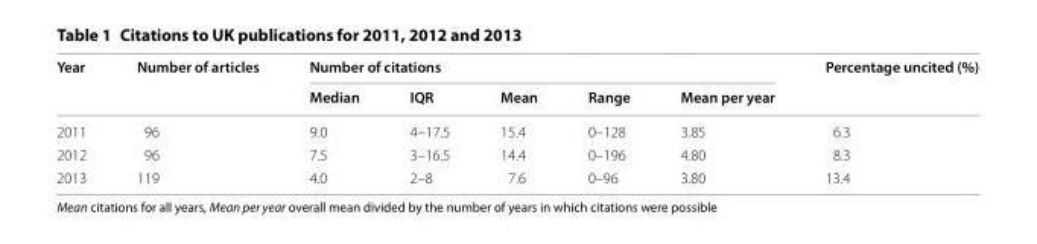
<table><thead><tr><td rowspan="2">Year</td><td rowspan="2">Number of articles</td><td colspan="5">Number of citations</td><td rowspan="2">Percentage uncited (%)</td></tr><tr><td>Median</td><td>IQR</td><td>Mean</td><td>Range</td><td>Mean per year</td></tr></thead><tbody><tr><td>2011</td><td>96</td><td>9.0</td><td>4–17.5</td><td>15.4</td><td>0–128</td><td>3.85</td><td>6.3</td></tr><tr><td>2012</td><td>96</td><td>7.5</td><td>3–16.5</td><td>14.4</td><td>0–196</td><td>4.80</td><td>8.3</td></tr><tr><td>2013</td><td>119</td><td>4.0</td><td>2–8</td><td>7.6</td><td>0–96</td><td>3.80</td><td>13.4</td></tr></tbody></table>